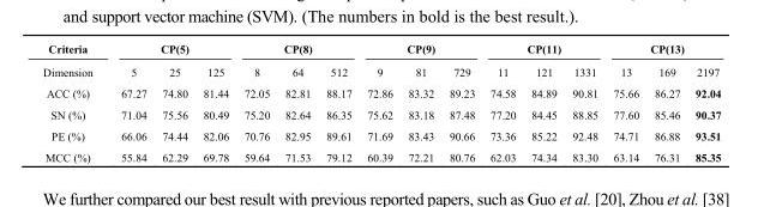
<table><thead><tr><td rowspan="2">Criteria Dimension</td><td colspan="3">CP(5)</td><td colspan="3">CP(8)</td><td colspan="3">CP(9)</td><td colspan="3">CP(11)</td><td colspan="3">CP(13)</td></tr><tr><td>5</td><td>25</td><td>125</td><td>8</td><td>64</td><td>512</td><td>9</td><td>81</td><td>729</td><td>11</td><td>121</td><td>1331</td><td>13</td><td>169</td><td>2197</td></tr></thead><tbody><tr><td>ACC (%)</td><td>67.27</td><td>74.80</td><td>81.44</td><td>72.05</td><td>82.81</td><td>88.17</td><td>72.86</td><td>83.32</td><td>89.23</td><td>74.58</td><td>84.89</td><td>90.81</td><td>75.66</td><td>86.27</td><td>92.04</td></tr><tr><td>SN (%)</td><td>71.04</td><td>75.56</td><td>80.49</td><td>75.20</td><td>82.64</td><td>86.35</td><td>75.62</td><td>83.18</td><td>87.48</td><td>77.20</td><td>84.45</td><td>88.85</td><td>77.60</td><td>85.46</td><td>90.37</td></tr><tr><td>PE (%)</td><td>66.06</td><td>74.44</td><td>82.06</td><td>70.76</td><td>82.95</td><td>89.61</td><td>71.69</td><td>83.43</td><td>90.66</td><td>73.36</td><td>85.22</td><td>92.48</td><td>74.71</td><td>86.88</td><td>93.51</td></tr><tr><td>MCC (%)</td><td>55.84</td><td>62.29</td><td>69.78</td><td>59.64</td><td>71.53</td><td>79.12</td><td>60.39</td><td>72.21</td><td>80.76</td><td>62.03</td><td>74.34</td><td>83.30</td><td>63.14</td><td>76.31</td><td>85.35</td></tr></tbody></table>